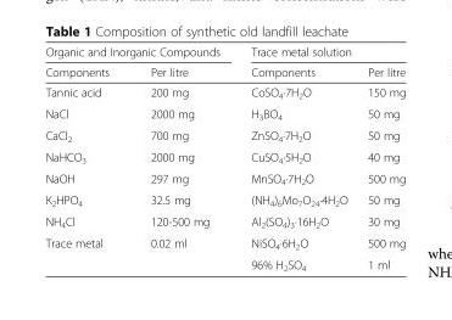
<table><thead><tr><td colspan="2">Organic and Inorganic Compounds</td><td colspan="2">Trace metal solution</td></tr><tr><td>Components</td><td>Per litre</td><td>Components</td><td>Per litre</td></tr></thead><tbody><tr><td>Tannic acid</td><td>200 mg</td><td>CoSO<sub>4</sub>·7H<sub>2</sub>O</td><td>150 mg</td></tr><tr><td>NaCl</td><td>2000 mg</td><td>H<sub>3</sub>BO<sub>4</sub></td><td>50 mg</td></tr><tr><td>CaCl<sub>2</sub></td><td>700 mg</td><td>ZnSO<sub>4</sub>·7H<sub>2</sub>O</td><td>50 mg</td></tr><tr><td>NaHCO<sub>3</sub></td><td>2000 mg</td><td>CuSO<sub>4</sub>·5H<sub>2</sub>O</td><td>40 mg</td></tr><tr><td>NaOH</td><td>297 mg</td><td>MnSO<sub>4</sub>·7H<sub>2</sub>O</td><td>500 mg</td></tr><tr><td>K<sub>2</sub>HPO<sub>4</sub></td><td>32.5 mg</td><td>(NH<sub>4</sub>)<sub>6</sub>Mo<sub>7</sub>O<sub>24</sub>·4H<sub>2</sub>O</td><td>50 mg</td></tr><tr><td>NH<sub>4</sub>Cl</td><td>120-500 mg</td><td>Al<sub>2</sub>(SO<sub>4</sub>)<sub>3</sub>·16H<sub>2</sub>O</td><td>30 mg</td></tr><tr><td rowspan="2">Trace metal</td><td>0.02 ml</td><td>NiSO<sub>4</sub>·6H<sub>2</sub>O</td><td>500 mg</td></tr><tr><td></td><td>96% H<sub>2</sub>SO<sub>4</sub></td><td>1 ml</td></tr></tbody></table>